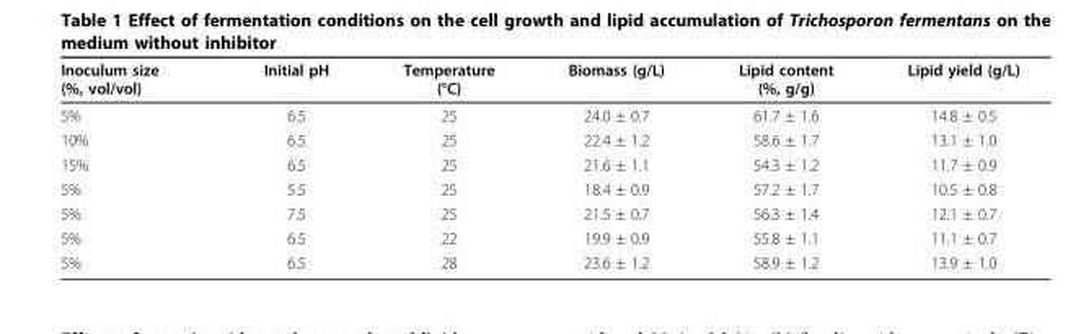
<table><thead><tr><td>Inoculum size (%, vol/vol)</td><td>Initial pH</td><td>Temperature (°C)</td><td>Biomass (g/L)</td><td>Lipid content (%, g/g)</td><td>Lipid yield (g/L)</td></tr></thead><tbody><tr><td>5%</td><td>6.5</td><td>25</td><td>24.0 ± 0.7</td><td>61.7 ± 1.6</td><td>14.8 ± 0.5</td></tr><tr><td>10%</td><td>6.5</td><td>25</td><td>22.4 ± 1.2</td><td>58.6 ± 1.7</td><td>13.1 ± 1.0</td></tr><tr><td>15%</td><td>6.5</td><td>25</td><td>21.6 ± 1.1</td><td>54.3 ± 1.2</td><td>11.7 ± 0.9</td></tr><tr><td>5%</td><td>5.5</td><td>25</td><td>18.4 ± 0.9</td><td>57.2 ± 1.7</td><td>10.5 ± 0.8</td></tr><tr><td>5%</td><td>7.5</td><td>25</td><td>21.5 ± 0.7</td><td>56.3 ± 1.4</td><td>12.1 ± 0.7</td></tr><tr><td>5%</td><td>6.5</td><td>22</td><td>19.9 ± 0.9</td><td>55.8 ± 1.1</td><td>11.1 ± 0.7</td></tr><tr><td>5%</td><td>6.5</td><td>28</td><td>23.6 ± 1.2</td><td>58.9 ± 1.2</td><td>13.9 ± 1.0</td></tr></tbody></table>